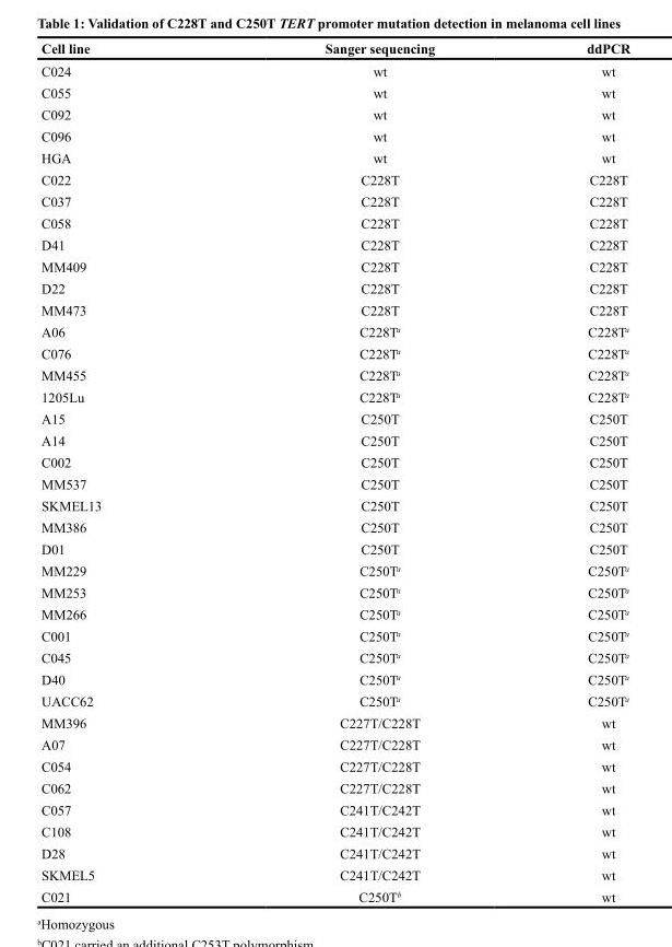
<table><thead><tr><td>Cell line</td><td>Sanger sequencing</td><td>ddPCR</td></tr></thead><tbody><tr><td>C024</td><td>wt</td><td>wt</td></tr><tr><td>C055</td><td>wt</td><td>wt</td></tr><tr><td>C092</td><td>wt</td><td>wt</td></tr><tr><td>C096</td><td>wt</td><td>wt</td></tr><tr><td>HGA</td><td>wt</td><td>wt</td></tr><tr><td>C022</td><td>C228T</td><td>C228T</td></tr><tr><td>C037</td><td>C228T</td><td>C228T</td></tr><tr><td>C058</td><td>C228T</td><td>C228T</td></tr><tr><td>D41</td><td>C228T</td><td>C228T</td></tr><tr><td>MM409</td><td>C228T</td><td>C228T</td></tr><tr><td>D22</td><td>C228T</td><td>C228T</td></tr><tr><td>MM473</td><td>C228T</td><td>C228T</td></tr><tr><td>A06</td><td>C228T<sup>a</sup></td><td>C228T<sup>a</sup></td></tr><tr><td>C076</td><td>C228T<sup>a</sup></td><td>C228T<sup>a</sup></td></tr><tr><td>MM455</td><td>C228T<sup>a</sup></td><td>C228T<sup>a</sup></td></tr><tr><td>1205Lu</td><td>C228T<sup>a</sup></td><td>C228T<sup>a</sup></td></tr><tr><td>A15</td><td>C250T</td><td>C250T</td></tr><tr><td>A14</td><td>C250T</td><td>C250T</td></tr><tr><td>C002</td><td>C250T</td><td>C250T</td></tr><tr><td>MM537</td><td>C250T</td><td>C250T</td></tr><tr><td>SKMEL13</td><td>C250T</td><td>C250T</td></tr><tr><td>MM386</td><td>C250T</td><td>C250T</td></tr><tr><td>D01</td><td>C250T</td><td>C250T</td></tr><tr><td>MM229</td><td>C250T<sup>a</sup></td><td>C250T<sup>a</sup></td></tr><tr><td>MM253</td><td>C250T<sup>a</sup></td><td>C250T<sup>a</sup></td></tr><tr><td>MM266</td><td>C250T<sup>a</sup></td><td>C250T<sup>a</sup></td></tr><tr><td>C001</td><td>C250T<sup>a</sup></td><td>C250T<sup>a</sup></td></tr><tr><td>C045</td><td>C250T<sup>a</sup></td><td>C250T<sup>a</sup></td></tr><tr><td>D40</td><td>C250T<sup>a</sup></td><td>C250T<sup>a</sup></td></tr><tr><td>UACC62</td><td>C250T<sup>a</sup></td><td>C250T<sup>a</sup></td></tr><tr><td>MM396</td><td>C227T/C228T</td><td>wt</td></tr><tr><td>A07</td><td>C227T/C228T</td><td>wt</td></tr><tr><td>C054</td><td>C227T/C228T</td><td>wt</td></tr><tr><td>C062</td><td>C227T/C228T</td><td>wt</td></tr><tr><td>C057</td><td>C241T/C242T</td><td>wt</td></tr><tr><td>C108</td><td>C241T/C242T</td><td>wt</td></tr><tr><td>D28</td><td>C241T/C242T</td><td>wt</td></tr><tr><td>SKMEL5</td><td>C241T/C242T</td><td>wt</td></tr><tr><td>C021</td><td>C250T<sup>b</sup></td><td>wt</td></tr></tbody></table>